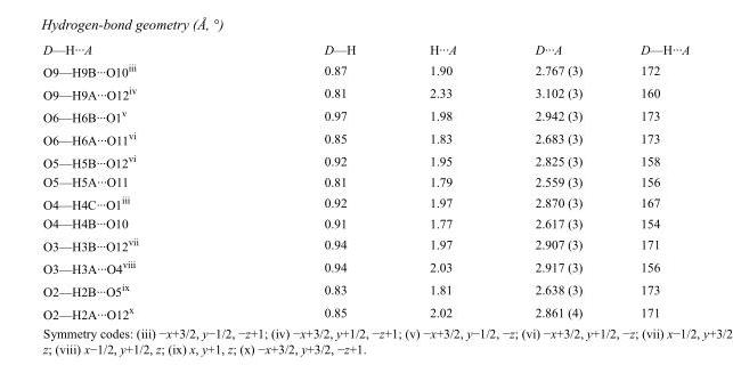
<table><tbody><tr><td>D—H···A</td><td>D—H</td><td>H···A</td><td>D···A</td><td>D—H···A</td></tr><tr><td>O9—H9B···O10<sup>iii</sup></td><td>0.87</td><td>1.90</td><td>2.767 (3)</td><td>172</td></tr><tr><td>O9—H9A···O12<sup>iv</sup></td><td>0.81</td><td>2.33</td><td>3.102 (3)</td><td>160</td></tr><tr><td>O6—H6B···O1<sup>v</sup></td><td>0.97</td><td>1.98</td><td>2.942 (3)</td><td>173</td></tr><tr><td>O6—H6A···O11<sup>vi</sup></td><td>0.85</td><td>1.83</td><td>2.683 (3)</td><td>173</td></tr><tr><td>O5—H5B···O12<sup>vi</sup></td><td>0.92</td><td>1.95</td><td>2.825 (3)</td><td>158</td></tr><tr><td>O5—H5A···O11</td><td>0.81</td><td>1.79</td><td>2.559 (3)</td><td>156</td></tr><tr><td>O4—H4C···O1<sup>iii</sup></td><td>0.92</td><td>1.97</td><td>2.870 (3)</td><td>167</td></tr><tr><td>O4—H4B···O10</td><td>0.91</td><td>1.77</td><td>2.617 (3)</td><td>154</td></tr><tr><td>O3—H3B···O12<sup>vii</sup></td><td>0.94</td><td>1.97</td><td>2.907 (3)</td><td>171</td></tr><tr><td>O3—H3A···O4<sup>viii</sup></td><td>0.94</td><td>2.03</td><td>2.917 (3)</td><td>156</td></tr><tr><td>O2—H2B···O5<sup>ix</sup></td><td>0.83</td><td>1.81</td><td>2.638 (3)</td><td>173</td></tr><tr><td>O2—H2A···O12<sup>x</sup></td><td>0.85</td><td>2.02</td><td>2.861 (4)</td><td>171</td></tr></tbody></table>